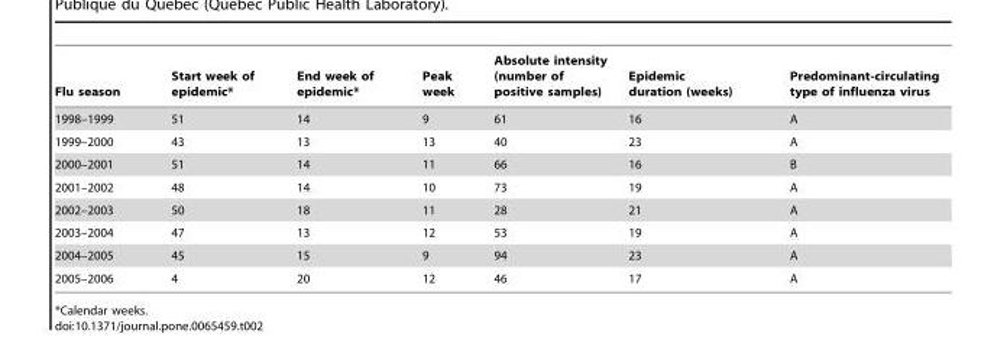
<table><thead><tr><td>Flu season</td><td>Start week of epidemic*</td><td>End week of epidemic*</td><td>Peak week</td><td>Absolute intensity (number of positive samples)</td><td>Epidemic duration (weeks)</td><td>Predominant-circulating type of influenza virus</td></tr></thead><tbody><tr><td>1998–1999</td><td>51</td><td>14</td><td>9</td><td>61</td><td>16</td><td>A</td></tr><tr><td>1999–2000</td><td>43</td><td>13</td><td>13</td><td>40</td><td>23</td><td>A</td></tr><tr><td>2000–2001</td><td>51</td><td>14</td><td>11</td><td>66</td><td>16</td><td>B</td></tr><tr><td>2001–2002</td><td>48</td><td>14</td><td>10</td><td>73</td><td>19</td><td>A</td></tr><tr><td>2002–2003</td><td>50</td><td>18</td><td>11</td><td>28</td><td>21</td><td>A</td></tr><tr><td>2003–2004</td><td>47</td><td>13</td><td>12</td><td>53</td><td>19</td><td>A</td></tr><tr><td>2004–2005</td><td>45</td><td>15</td><td>9</td><td>94</td><td>23</td><td>A</td></tr><tr><td>2005–2006</td><td>4</td><td>20</td><td>12</td><td>46</td><td>17</td><td>A</td></tr></tbody></table>